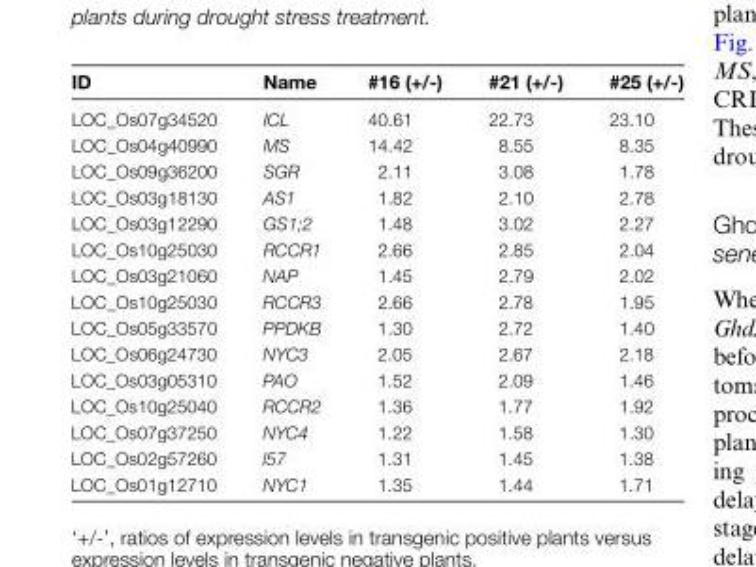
<table><thead><tr><td>ID</td><td>Name</td><td>#16 (+/-)</td><td>#21 (+/-)</td><td>#25 (+/-)</td></tr></thead><tbody><tr><td>LOC_Os07g34520</td><td>ICL</td><td>40.61</td><td>22.73</td><td>23.10</td></tr><tr><td>LOC_Os04g40990</td><td>MS</td><td>14.42</td><td>8.55</td><td>8.35</td></tr><tr><td>LOC_Os09g36200</td><td>SGR</td><td>2.11</td><td>3.08</td><td>1.78</td></tr><tr><td>LOC_Os03g18130</td><td>AS1</td><td>1.82</td><td>2.10</td><td>2.78</td></tr><tr><td>LOC_Os03g12290</td><td>GS1;2</td><td>1.48</td><td>3.02</td><td>2.27</td></tr><tr><td>LOC_Os10g25030</td><td>RCCR1</td><td>2.66</td><td>2.85</td><td>2.04</td></tr><tr><td>LOC_Os03g21060</td><td>NAP</td><td>1.45</td><td>2.79</td><td>2.02</td></tr><tr><td>LOC_Os10g25030</td><td>RCCR3</td><td>2.66</td><td>2.78</td><td>1.95</td></tr><tr><td>LOC_Os05g33570</td><td>PPDKB</td><td>1.30</td><td>2.72</td><td>1.40</td></tr><tr><td>LOC_Os06g24730</td><td>NYC3</td><td>2.05</td><td>2.67</td><td>2.18</td></tr><tr><td>LOC_Os03g05310</td><td>PAO</td><td>1.52</td><td>2.09</td><td>1.46</td></tr><tr><td>LOC_Os10g25040</td><td>RCCR2</td><td>1.36</td><td>1.77</td><td>1.92</td></tr><tr><td>LOC_Os07g37250</td><td>NYC4</td><td>1.22</td><td>1.58</td><td>1.30</td></tr><tr><td>LOC_Os02g57260</td><td>l57</td><td>1.31</td><td>1.45</td><td>1.38</td></tr><tr><td>LOC_Os01g12710</td><td>NYC1</td><td>1.35</td><td>1.44</td><td>1.71</td></tr></tbody></table>